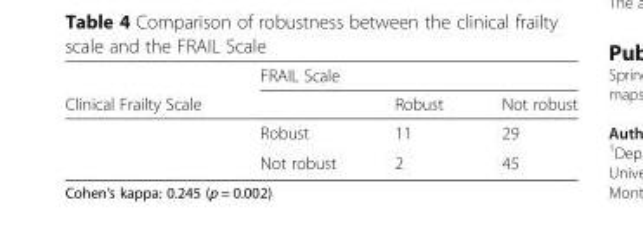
<table><thead><tr><td rowspan="2">Clinical Frailty Scale</td><td colspan="3">FRAIL Scale</td></tr><tr><td></td><td>Robust</td><td>Not robust</td></tr></thead><tbody><tr><td></td><td>Robust</td><td>11</td><td>29</td></tr><tr><td></td><td>Not robust</td><td>2</td><td>45</td></tr></tbody></table>